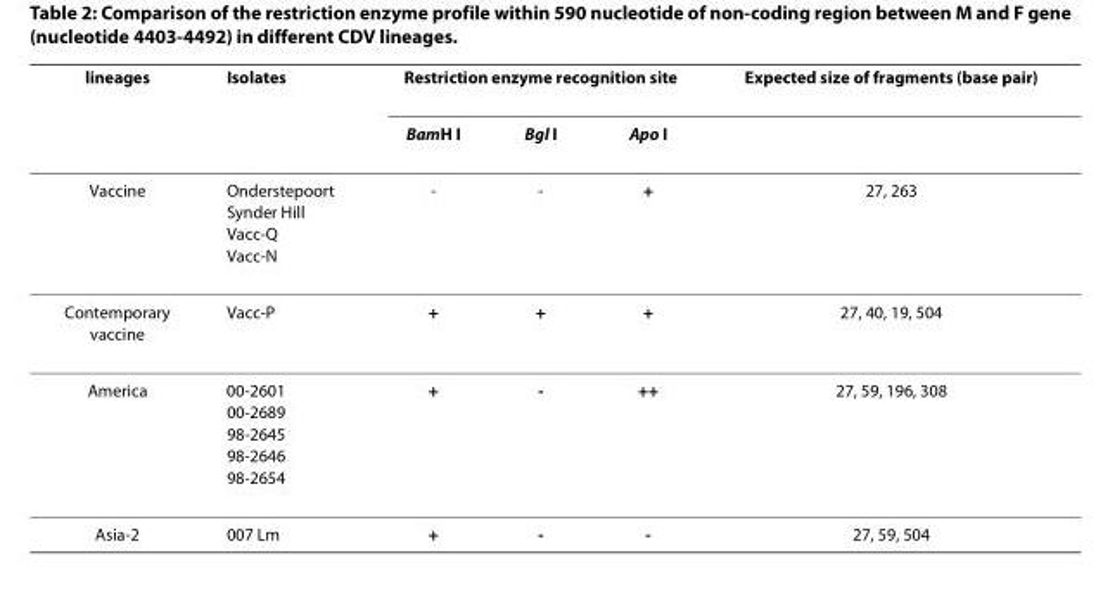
<table><thead><tr><td rowspan="2">lineages</td><td rowspan="2">Isolates</td><td colspan="3">Restriction enzyme recognition site</td><td rowspan="2">Expected size of fragments (base pair)</td></tr><tr><td>BamH I</td><td>Bgl I</td><td>Apo I</td></tr></thead><tbody><tr><td>Vaccine</td><td>Onderstepoort Synder Hill Vacc-Q Vacc-N</td><td>-</td><td>-</td><td>+</td><td>27, 263</td></tr><tr><td>Contemporary vaccine</td><td>Vacc-P</td><td>+</td><td>+</td><td>+</td><td>27, 40, 19, 504</td></tr><tr><td>America</td><td>00-2601 00-2689 98-2645 98-2646 98-2654</td><td>+</td><td>-</td><td>++</td><td>27, 59, 196, 308</td></tr><tr><td>Asia-2</td><td>007 Lm</td><td>+</td><td>-</td><td>-</td><td>27, 59, 504</td></tr></tbody></table>